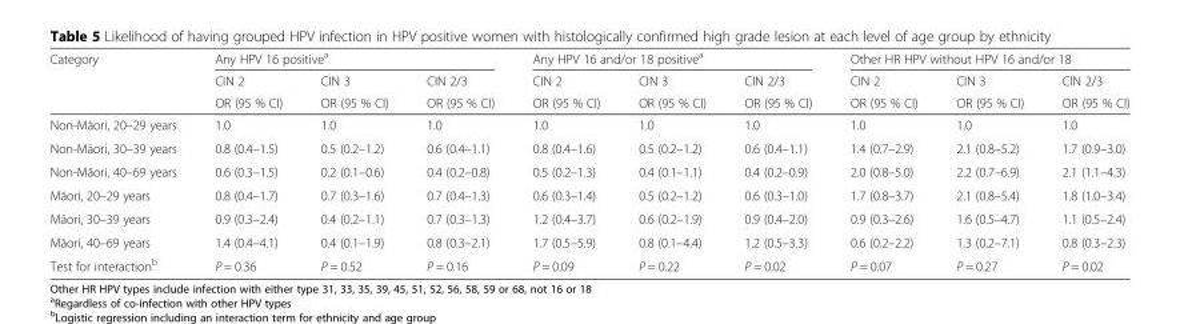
<table><thead><tr><td rowspan="3">Category</td><td colspan="3">Any HPV 16 positive<sup>a</sup></td><td colspan="3">Any HPV 16 and/or 18 positive<sup>a</sup></td><td colspan="3">Other HR HPV without HPV 16 and/or 18</td></tr><tr><td rowspan="2">CIN 2 OR (95 % CI)</td><td rowspan="2">CIN 3 OR (95 % CI)</td><td rowspan="2">CIN 2/3 OR (95 % CI)</td><td rowspan="2">CIN 2 OR (95 % CI)</td><td rowspan="2">CIN 3 OR (95 % CI)</td><td rowspan="2">CIN 2/3 OR (95 % CI)</td><td rowspan="2">CIN 2 OR (95 % CI)</td><td rowspan="2">CIN 3 OR (95 % CI)</td><td rowspan="2">CIN 2/3 OR (95 % CI)</td></tr><tr></tr></thead><tbody><tr><td>Non-Māori, 20–29 years</td><td>1.0</td><td>1.0</td><td>1.0</td><td>1.0</td><td>1.0</td><td>1.0</td><td>1.0</td><td>1.0</td><td>1.0</td></tr><tr><td>Non-Māori, 30–39 years</td><td>0.8 (0.4–1.5)</td><td>0.5 (0.2–1.2)</td><td>0.6 (0.4–1.1)</td><td>0.8 (0.4–1.6)</td><td>0.5 (0.2–1.2)</td><td>0.6 (0.4–1.1)</td><td>1.4 (0.7–2.9)</td><td>2.1 (0.8–5.2)</td><td>1.7 (0.9–3.0)</td></tr><tr><td>Non-Māori, 40–69 years</td><td>0.6 (0.3–1.5)</td><td>0.2 (0.1–0.6)</td><td>0.4 (0.2–0.8)</td><td>0.5 (0.2–1.3)</td><td>0.4 (0.1–1.1)</td><td>0.4 (0.2–0.9)</td><td>2.0 (0.8–5.0)</td><td>2.2 (0.7–6.9)</td><td>2.1 (1.1–4.3)</td></tr><tr><td>Māori, 20–29 years</td><td>0.8 (0.4–1.7)</td><td>0.7 (0.3–1.6)</td><td>0.7 (0.4–1.3)</td><td>0.6 (0.3–1.4)</td><td>0.5 (0.2–1.2)</td><td>0.6 (0.3–1.0)</td><td>1.7 (0.8–3.7)</td><td>2.1 (0.8–5.4)</td><td>1.8 (1.0–3.4)</td></tr><tr><td>Māori, 30–39 years</td><td>0.9 (0.3–2.4)</td><td>0.4 (0.2–1.1)</td><td>0.7 (0.3–1.3)</td><td>1.2 (0.4–3.7)</td><td>0.6 (0.2–1.9)</td><td>0.9 (0.4–2.0)</td><td>0.9 (0.3–2.6)</td><td>1.6 (0.5–4.7)</td><td>1.1 (0.5–2.4)</td></tr><tr><td>Māori, 40–69 years</td><td>1.4 (0.4–4.1)</td><td>0.4 (0.1–1.9)</td><td>0.8 (0.3–2.1)</td><td>1.7 (0.5–5.9)</td><td>0.8 (0.1–4.4)</td><td>1.2 (0.5–3.3)</td><td>0.6 (0.2–2.2)</td><td>1.3 (0.2–7.1)</td><td>0.8 (0.3–2.3)</td></tr><tr><td>Test for interaction<sup>b</sup></td><td>P = 0.36</td><td>P = 0.52</td><td>P = 0.16</td><td>P = 0.09</td><td>P = 0.22</td><td>P = 0.02</td><td>P = 0.07</td><td>P = 0.27</td><td>P = 0.02</td></tr></tbody></table>